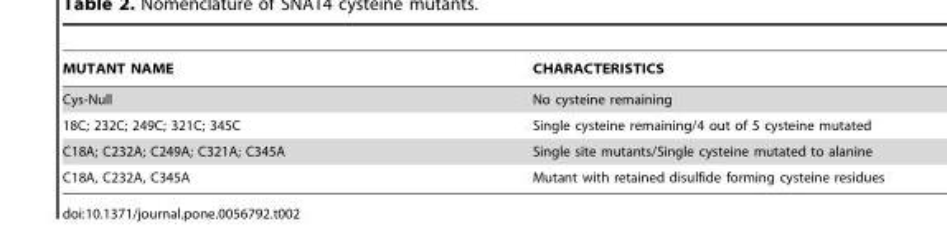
<table><thead><tr><td>MUTANT NAME</td><td>CHARACTERISTICS</td></tr></thead><tbody><tr><td>Cys-Null</td><td>No cysteine remaining</td></tr><tr><td>18C; 232C; 249C; 321C; 345C</td><td>Single cysteine remaining/4 out of 5 cysteine mutated</td></tr><tr><td>C18A; C232A; C249A; C321A; C345A</td><td>Single site mutants/Single cysteine mutated to alanine</td></tr><tr><td>C18A, C232A, C345A</td><td>Mutant with retained disulfide forming cysteine residues</td></tr></tbody></table>